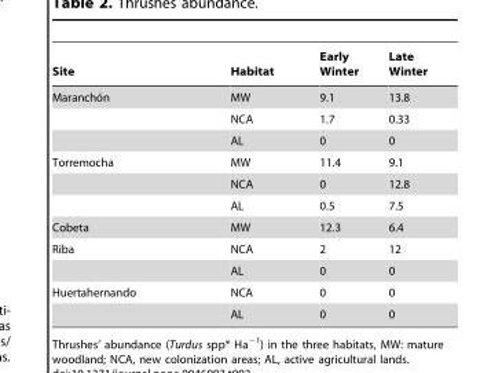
<table><thead><tr><td>Site</td><td>Habitat</td><td>Early Winter</td><td>Late Winter</td></tr></thead><tbody><tr><td rowspan="3">Marancho´n</td><td>MW</td><td>9.1</td><td>13.8</td></tr><tr><td>NCA</td><td>1.7</td><td>0.33</td></tr><tr><td>AL</td><td>0</td><td>0</td></tr><tr><td rowspan="3">Torremocha</td><td>MW</td><td>11.4</td><td>9.1</td></tr><tr><td>NCA</td><td>0</td><td>12.8</td></tr><tr><td>AL</td><td>0.5</td><td>7.5</td></tr><tr><td>Cobeta</td><td>MW</td><td>12.3</td><td>6.4</td></tr><tr><td rowspan="2">Riba</td><td>NCA</td><td>2</td><td>12</td></tr><tr><td>AL</td><td>0</td><td>0</td></tr><tr><td rowspan="2">Huertahernando</td><td>NCA</td><td>0</td><td>0</td></tr><tr><td>AL</td><td>0</td><td>0</td></tr></tbody></table>